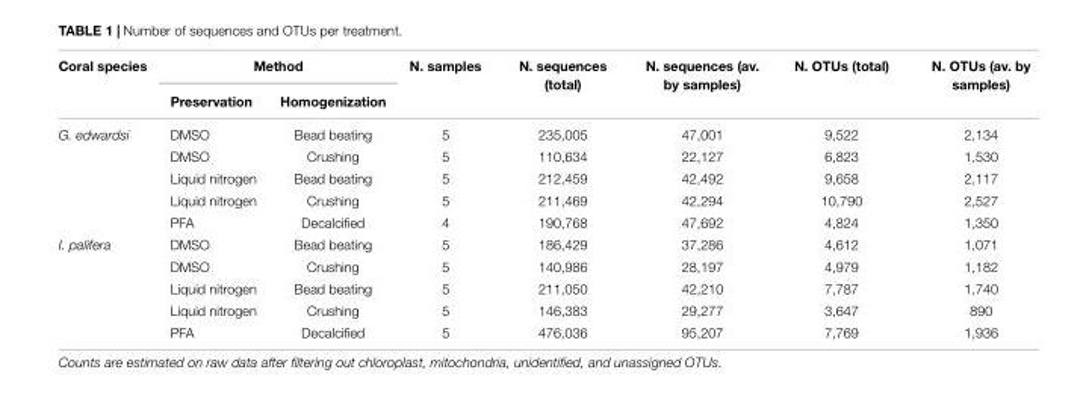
<table><thead><tr><td rowspan="2">Coral species</td><td colspan="2">Method</td><td rowspan="2">N. samples</td><td rowspan="2">N. sequences (total)</td><td rowspan="2">N. sequences (av. by samples)</td><td rowspan="2">N. OTUs (total)</td><td rowspan="2">N. OTUs (av. by samples)</td></tr><tr><td>Preservation</td><td>Homogenization</td></tr></thead><tbody><tr><td rowspan="5">G. edwardsi</td><td>DMSO</td><td>Bead beating</td><td>5</td><td>235,005</td><td>47,001</td><td>9,522</td><td>2,134</td></tr><tr><td>DMSO</td><td>Crushing</td><td>5</td><td>110,634</td><td>22,127</td><td>6,823</td><td>1,530</td></tr><tr><td>Liquid nitrogen</td><td>Bead beating</td><td>5</td><td>212,459</td><td>42,492</td><td>9,658</td><td>2,117</td></tr><tr><td>Liquid nitrogen</td><td>Crushing</td><td>5</td><td>211,469</td><td>42,294</td><td>10,790</td><td>2,527</td></tr><tr><td>PFA</td><td>Decalcified</td><td>4</td><td>190,768</td><td>47,692</td><td>4,824</td><td>1,350</td></tr><tr><td rowspan="5">I. palifera</td><td>DMSO</td><td>Bead beating</td><td>5</td><td>186,429</td><td>37,286</td><td>4,612</td><td>1,071</td></tr><tr><td>DMSO</td><td>Crushing</td><td>5</td><td>140,986</td><td>28,197</td><td>4,979</td><td>1,182</td></tr><tr><td>Liquid nitrogen</td><td>Bead beating</td><td>5</td><td>211,050</td><td>42,210</td><td>7,787</td><td>1,740</td></tr><tr><td>Liquid nitrogen</td><td>Crushing</td><td>5</td><td>146,383</td><td>29,277</td><td>3,647</td><td>890</td></tr><tr><td>PFA</td><td>Decalcified</td><td>5</td><td>476,036</td><td>95,207</td><td>7,769</td><td>1,936</td></tr></tbody></table>